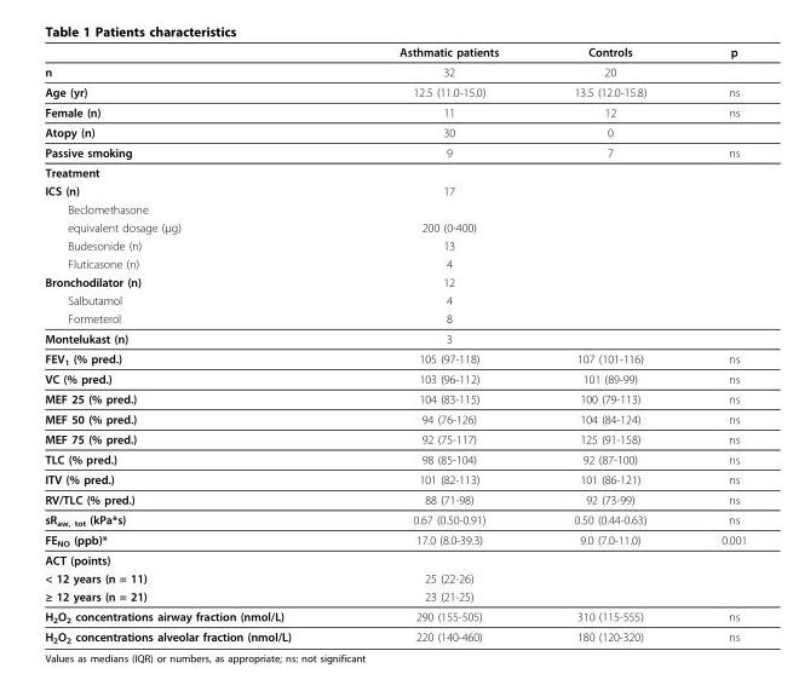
<table><thead><tr><td></td><td>Asthmatic patients</td><td>Controls</td><td>p</td></tr></thead><tbody><tr><td>n</td><td>32</td><td>20</td><td></td></tr><tr><td>Age (yr)</td><td>12.5 (11.0-15.0)</td><td>13.5 (12.0-15.8)</td><td>ns</td></tr><tr><td>Female (n)</td><td>11</td><td>12</td><td>ns</td></tr><tr><td>Atopy (n)</td><td>30</td><td>0</td><td></td></tr><tr><td>Passive smoking</td><td>9</td><td>7</td><td>ns</td></tr><tr><td colspan="4">Treatment</td></tr><tr><td>ICS (n)</td><td>17</td><td></td><td></td></tr><tr><td colspan="4">Beclomethasone</td></tr><tr><td>equivalent dosage (μg)</td><td>200 (0-400)</td><td></td><td></td></tr><tr><td>Budesonide (n)</td><td>13</td><td></td><td></td></tr><tr><td>Fluticasone (n)</td><td>4</td><td></td><td></td></tr><tr><td>Bronchodilator (n)</td><td>12</td><td></td><td></td></tr><tr><td>Salbutamol</td><td>4</td><td></td><td></td></tr><tr><td>Formeterol</td><td>8</td><td></td><td></td></tr><tr><td>Montelukast (n)</td><td>3</td><td></td><td></td></tr><tr><td>FEV<sub>1</sub> (% pred.)</td><td>105 (97-118)</td><td>107 (101-116)</td><td>ns</td></tr><tr><td>VC (% pred.)</td><td>103 (96-112)</td><td>101 (89-99)</td><td>ns</td></tr><tr><td>MEF 25 (% pred.)</td><td>104 (83-115)</td><td>100 (79-113)</td><td>ns</td></tr><tr><td>MEF 50 (% pred.)</td><td>94 (76-126)</td><td>104 (84-124)</td><td>ns</td></tr><tr><td>MEF 75 (% pred.)</td><td>92 (75-117)</td><td>125 (91-158)</td><td>ns</td></tr><tr><td>TLC (% pred.)</td><td>98 (85-104)</td><td>92 (87-100)</td><td>ns</td></tr><tr><td>ITV (% pred.)</td><td>101 (82-113)</td><td>101 (86-121)</td><td>ns</td></tr><tr><td>RV/TLC (% pred.)</td><td>88 (71-98)</td><td>92 (73-99)</td><td>ns</td></tr><tr><td>sR<sub>aw, tot</sub> (kPa*s)</td><td>0.67 (0.50-0.91)</td><td>0.50 (0.44-0.63)</td><td>ns</td></tr><tr><td>FE<sub>NO</sub> (ppb)*</td><td>17.0 (8.0-39.3)</td><td>9.0 (7.0-11.0)</td><td>0.001</td></tr><tr><td colspan="4">ACT (points)</td></tr><tr><td>&lt; 12 years (n = 11)</td><td>25 (22-26)</td><td></td><td></td></tr><tr><td>≥ 12 years (n = 21)</td><td>23 (21-25)</td><td></td><td></td></tr><tr><td>H<sub>2</sub>O<sub>2</sub> concentrations airway fraction (nmol/L)</td><td>290 (155-505)</td><td>310 (115-555)</td><td>ns</td></tr><tr><td>H<sub>2</sub>O<sub>2</sub> concentrations alveolar fraction (nmol/L)</td><td>220 (140-460)</td><td>180 (120-320)</td><td>ns</td></tr></tbody></table>